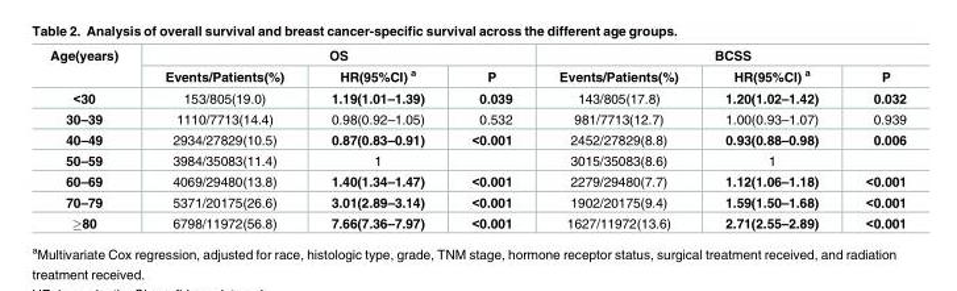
<table><thead><tr><td rowspan="2">Age(years)</td><td colspan="3">OS</td><td colspan="3">BCSS</td></tr><tr><td>Events/Patients(%)</td><td>HR(95%CI) <sup>a</sup></td><td>P</td><td>Events/Patients(%)</td><td>HR(95%CI) <sup>a</sup></td><td>P</td></tr></thead><tbody><tr><td>&lt;30</td><td>153/805(19.0)</td><td>1.19(1.01–1.39)</td><td>0.039</td><td>143/805(17.8)</td><td>1.20(1.02–1.42)</td><td>0.032</td></tr><tr><td>30–39</td><td>1110/7713(14.4)</td><td>0.98(0.92–1.05)</td><td>0.532</td><td>981/7713(12.7)</td><td>1.00(0.93–1.07)</td><td>0.939</td></tr><tr><td>40–49</td><td>2934/27829(10.5)</td><td>0.87(0.83–0.91)</td><td>&lt;0.001</td><td>2452/27829(8.8)</td><td>0.93(0.88–0.98)</td><td>0.006</td></tr><tr><td>50–59</td><td>3984/35083(11.4)</td><td>1</td><td></td><td>3015/35083(8.6)</td><td>1</td><td></td></tr><tr><td>60–69</td><td>4069/29480(13.8)</td><td>1.40(1.34–1.47)</td><td>&lt;0.001</td><td>2279/29480(7.7)</td><td>1.12(1.06–1.18)</td><td>&lt;0.001</td></tr><tr><td>70–79</td><td>5371/20175(26.6)</td><td>3.01(2.89–3.14)</td><td>&lt;0.001</td><td>1902/20175(9.4)</td><td>1.59(1.50–1.68)</td><td>&lt;0.001</td></tr><tr><td>≥80</td><td>6798/11972(56.8)</td><td>7.66(7.36–7.97)</td><td>&lt;0.001</td><td>1627/11972(13.6)</td><td>2.71(2.55–2.89)</td><td>&lt;0.001</td></tr></tbody></table>